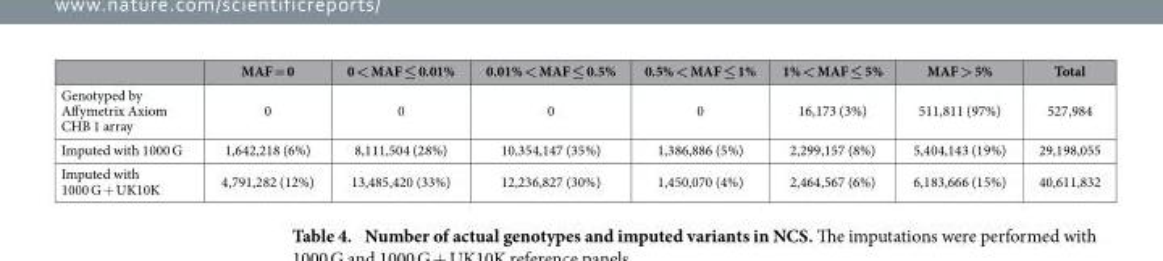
<table><thead><tr><td></td><td>MAF = 0</td><td>0 &lt; MAF ≤ 0.01%</td><td>0.01% &lt; MAF ≤ 0.5%</td><td>0.5% &lt; MAF ≤ 1%</td><td>1% &lt; MAF ≤ 5%</td><td>MAF &gt; 5%</td><td>Total</td></tr></thead><tbody><tr><td>Genotyped by Affymetrix Axiom CHB 1 array</td><td>0</td><td>0</td><td>0</td><td>0</td><td>16,173 (3%)</td><td>511,811 (97%)</td><td>527,984</td></tr><tr><td>Imputed with 1000 G</td><td>1,642,218 (6%)</td><td>8,111,504 (28%)</td><td>10,354,147 (35%)</td><td>1,386,886 (5%)</td><td>2,299,157 (8%)</td><td>5,404,143 (19%)</td><td>29,198,055</td></tr><tr><td>Imputed with 1000 G + UK10K</td><td>4,791,282 (12%)</td><td>13,485,420 (33%)</td><td>12,236,827 (30%)</td><td>1,450,070 (4%)</td><td>2,464,567 (6%)</td><td>6,183,666 (15%)</td><td>40,611,832</td></tr></tbody></table>